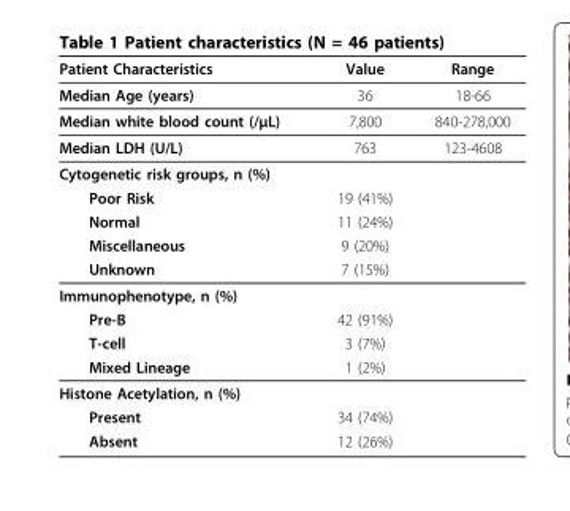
<table><thead><tr><td>Patient Characteristics</td><td>Value</td><td>Range</td></tr></thead><tbody><tr><td>Median Age (years)</td><td>36</td><td>18-66</td></tr><tr><td>Median white blood count (/μL)</td><td>7,800</td><td>840-278,000</td></tr><tr><td>Median LDH (U/L)</td><td>763</td><td>123-4608</td></tr><tr><td colspan="3">Cytogenetic risk groups, n (%)</td></tr><tr><td>Poor Risk</td><td>19 (41%)</td><td></td></tr><tr><td>Normal</td><td>11 (24%)</td><td></td></tr><tr><td>Miscellaneous</td><td>9 (20%)</td><td></td></tr><tr><td>Unknown</td><td>7 (15%)</td><td></td></tr><tr><td colspan="3">Immunophenotype, n (%)</td></tr><tr><td>Pre-B</td><td>42 (91%)</td><td></td></tr><tr><td>T-cell</td><td>3 (7%)</td><td></td></tr><tr><td>Mixed Lineage</td><td>1 (2%)</td><td></td></tr><tr><td colspan="3">Histone Acetylation, n (%)</td></tr><tr><td>Present</td><td>34 (74%)</td><td></td></tr><tr><td>Absent</td><td>12 (26%)</td><td></td></tr></tbody></table>